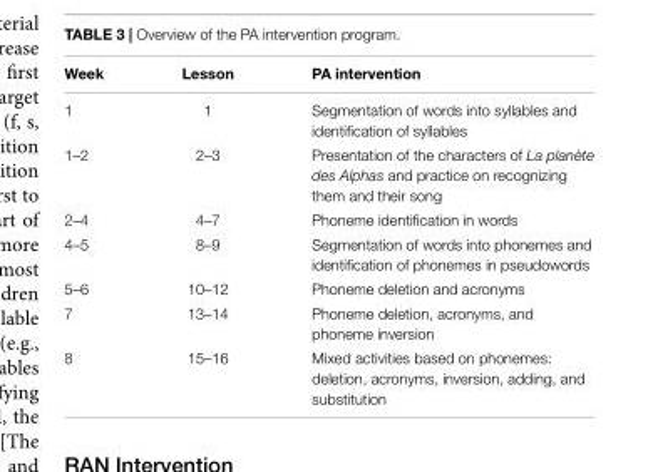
<table><thead><tr><td>Week</td><td>Lesson</td><td>PA intervention</td></tr></thead><tbody><tr><td>1</td><td>1</td><td>Segmentation of words into syllables and identification of syllables</td></tr><tr><td>1–2</td><td>2–3</td><td>Presentation of the characters of La planète des Alphas and practice on recognizing them and their song</td></tr><tr><td>2–4</td><td>4–7</td><td>Phoneme identification in words</td></tr><tr><td>4–5</td><td>8–9</td><td>Segmentation of words into phonemes and identification of phonemes in pseudowords</td></tr><tr><td>5–6</td><td>10–12</td><td>Phoneme deletion and acronyms</td></tr><tr><td>7</td><td>13–14</td><td>Phoneme deletion, acronyms, and phoneme inversion</td></tr><tr><td>8</td><td>15–16</td><td>Mixed activities based on phonemes: deletion, acronyms, inversion, adding, and substitution</td></tr></tbody></table>